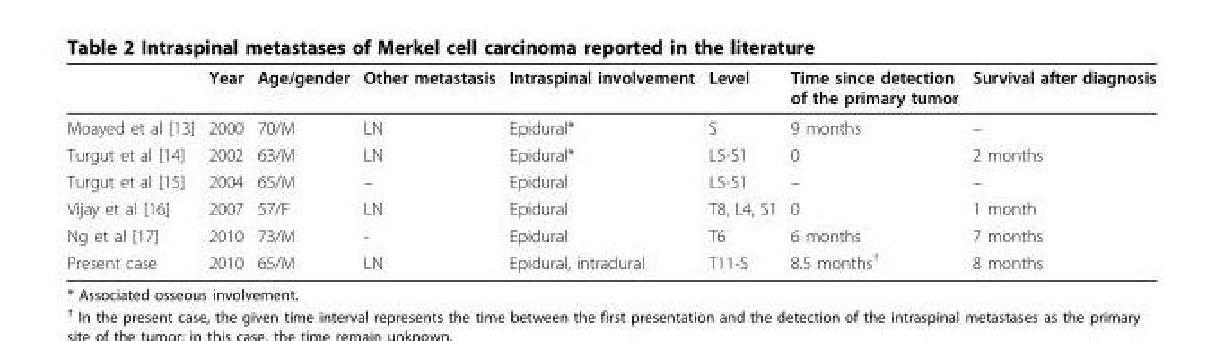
<table><thead><tr><td></td><td>Year</td><td>Age/gender</td><td>Other metastasis</td><td>Intraspinal involvement</td><td>Level</td><td>Time since detection of the primary tumor</td><td>Survival after diagnosis</td></tr></thead><tbody><tr><td>Moayed et al [13]</td><td>2000</td><td>70/M</td><td>LN</td><td>Epidural*</td><td>S</td><td>9 months</td><td>–</td></tr><tr><td>Turgut et al [14]</td><td>2002</td><td>63/M</td><td>LN</td><td>Epidural*</td><td>L5-S1</td><td>0</td><td>2 months</td></tr><tr><td>Turgut et al [15]</td><td>2004</td><td>65/M</td><td>–</td><td>Epidural</td><td>L5-S1</td><td>–</td><td>–</td></tr><tr><td>Vijay et al [16]</td><td>2007</td><td>57/F</td><td>LN</td><td>Epidural</td><td>T8, L4, S1</td><td>0</td><td>1 month</td></tr><tr><td>Ng et al [17]</td><td>2010</td><td>73/M</td><td>-</td><td>Epidural</td><td>T6</td><td>6 months</td><td>7 months</td></tr><tr><td>Present case</td><td>2010</td><td>65/M</td><td>LN</td><td>Epidural, intradural</td><td>T11-S</td><td>8.5 months<sup>†</sup></td><td>8 months</td></tr></tbody></table>